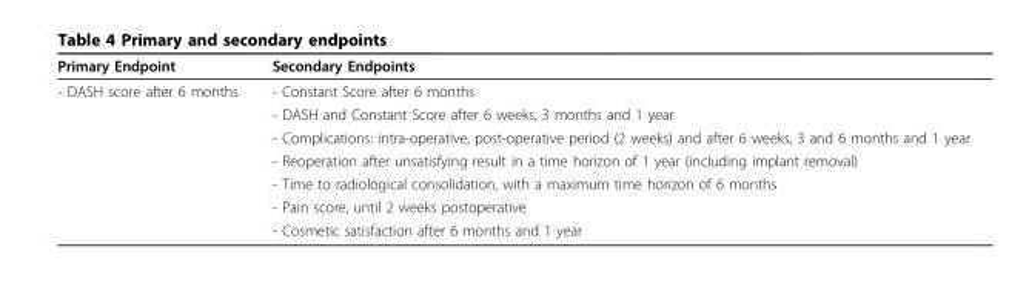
<table><thead><tr><td>Primary Endpoint</td><td>Secondary Endpoints</td></tr></thead><tbody><tr><td rowspan="7">- DASH score after 6 months</td><td>- Constant Score after 6 months</td></tr><tr><td>- DASH and Constant Score after 6 weeks, 3 months and 1 year</td></tr><tr><td>- Complications: intra-operative, post-operative period (2 weeks) and after 6 weeks, 3 and 6 months and 1 year</td></tr><tr><td>- Reoperation after unsatisfying result in a time horizon of 1 year (including implant removal)</td></tr><tr><td>- Time to radiological consolidation, with a maximum time horizon of 6 months</td></tr><tr><td>- Pain score, until 2 weeks postoperative</td></tr><tr><td>- Cosmetic satisfaction after 6 months and 1 year</td></tr></tbody></table>